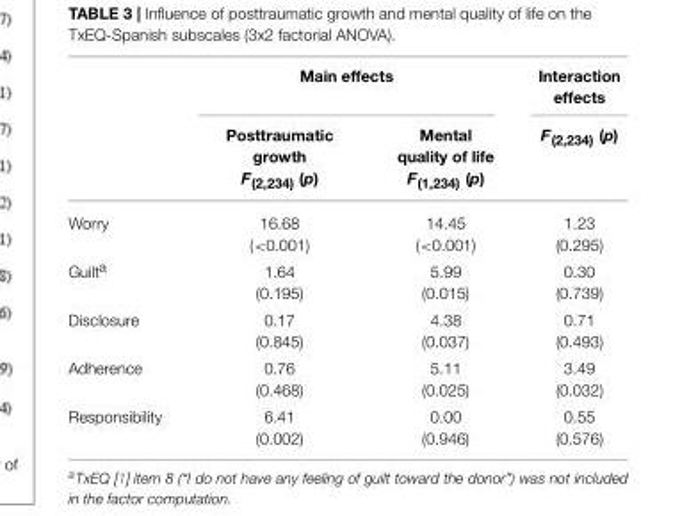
<table><thead><tr><td rowspan="2"></td><td colspan="2">Main effects</td><td rowspan="2">Interaction effects F<sub>(2,234)</sub> (p)</td></tr><tr><td>Posttraumatic growth F<sub>(2,234)</sub> (p)</td><td>Mental quality of life F<sub>(1,234)</sub> (p)</td></tr></thead><tbody><tr><td>Worry</td><td>16.68 (&lt;0.001)</td><td>14.45 (&lt;0.001)</td><td>1.23 (0.295)</td></tr><tr><td>Guilt<sup>a</sup></td><td>1.64 (0.195)</td><td>5.99 (0.015)</td><td>0.30 (0.739)</td></tr><tr><td>Disclosure</td><td>0.17 (0.845)</td><td>4.38 (0.037)</td><td>0.71 (0.493)</td></tr><tr><td>Adherence</td><td>0.76 (0.468)</td><td>5.11 (0.025)</td><td>3.49 (0.032)</td></tr><tr><td>Responsibility</td><td>6.41 (0.002)</td><td>0.00 (0.946)</td><td>0.55 (0.576)</td></tr></tbody></table>